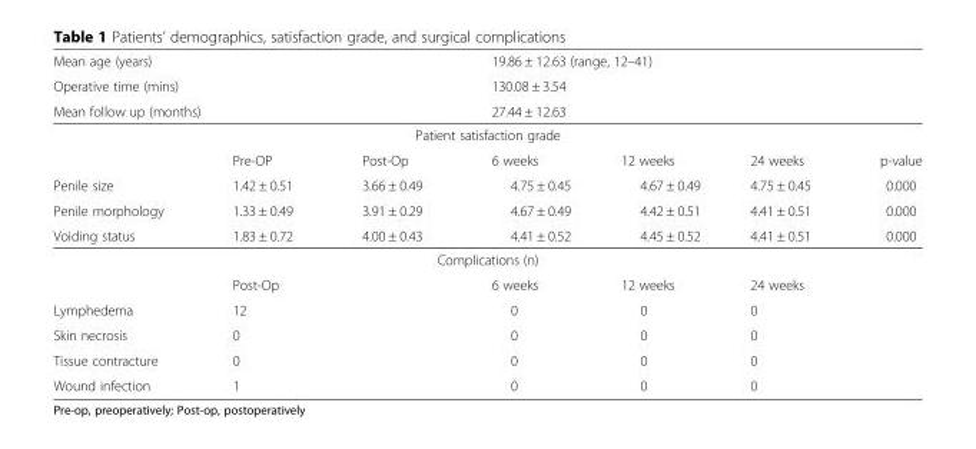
<table><tbody><tr><td colspan="3">Mean age (years)</td><td colspan="4">19.86 ± 12.63 (range, 12–41)</td></tr><tr><td colspan="3">Operative time (mins)</td><td colspan="4">130.08 ± 3.54</td></tr><tr><td colspan="3">Mean follow up (months)</td><td colspan="4">27.44 ± 12.63</td></tr><tr><td colspan="7">Patient satisfaction grade</td></tr><tr><td></td><td>Pre-OP</td><td>Post-Op</td><td>6 weeks</td><td>12 weeks</td><td>24 weeks</td><td>p-value</td></tr><tr><td>Penile size</td><td>1.42 ± 0.51</td><td>3.66 ± 0.49</td><td>4.75 ± 0.45</td><td>4.67 ± 0.49</td><td>4.75 ± 0.45</td><td>0.000</td></tr><tr><td>Penile morphology</td><td>1.33 ± 0.49</td><td>3.91 ± 0.29</td><td>4.67 ± 0.49</td><td>4.42 ± 0.51</td><td>4.41 ± 0.51</td><td>0.000</td></tr><tr><td>Voiding status</td><td>1.83 ± 0.72</td><td>4.00 ± 0.43</td><td>4.41 ± 0.52</td><td>4.45 ± 0.52</td><td>4.41 ± 0.51</td><td>0.000</td></tr><tr><td colspan="7">Complications (n)</td></tr><tr><td></td><td colspan="2">Post-Op</td><td>6 weeks</td><td>12 weeks</td><td colspan="2">24 weeks</td></tr><tr><td>Lymphedema</td><td colspan="2">12</td><td>0</td><td>0</td><td colspan="2">0</td></tr><tr><td>Skin necrosis</td><td colspan="2">0</td><td>0</td><td>0</td><td colspan="2">0</td></tr><tr><td>Tissue contracture</td><td colspan="2">0</td><td>0</td><td>0</td><td colspan="2">0</td></tr><tr><td>Wound infection</td><td colspan="2">1</td><td>0</td><td>0</td><td colspan="2">0</td></tr></tbody></table>